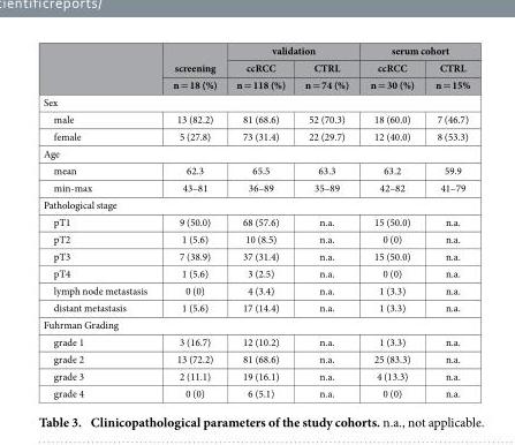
<table><thead><tr><td rowspan="3"></td><td rowspan="3">screening n = 18 (%)</td><td colspan="2">validation</td><td colspan="2">serum cohort</td></tr><tr><td rowspan="2">ccRCC n = 118 (%)</td><td rowspan="2">CTRL n = 74 (%)</td><td rowspan="2">ccRCC n = 30 (%)</td><td rowspan="2">CTRL n = 15%</td></tr><tr></tr></thead><tbody><tr><td colspan="6">Sex</td></tr><tr><td>male</td><td>13 (82.2)</td><td>81 (68.6)</td><td>52 (70.3)</td><td>18 (60.0)</td><td>7 (46.7)</td></tr><tr><td>female</td><td>5 (27.8)</td><td>73 (31.4)</td><td>22 (29.7)</td><td>12 (40.0)</td><td>8 (53.3)</td></tr><tr><td colspan="6">Age</td></tr><tr><td>mean</td><td>62.3</td><td>65.5</td><td>63.3</td><td>63.2</td><td>59.9</td></tr><tr><td>min-max</td><td>43–81</td><td>36–89</td><td>35–89</td><td>42–82</td><td>41–79</td></tr><tr><td colspan="6">Pathological stage</td></tr><tr><td>pT1</td><td>9 (50.0)</td><td>68 (57.6)</td><td>n.a.</td><td>15 (50.0)</td><td>n.a.</td></tr><tr><td>pT2</td><td>1 (5.6)</td><td>10 (8.5)</td><td>n.a.</td><td>0 (0)</td><td>n.a.</td></tr><tr><td>pT3</td><td>7 (38.9)</td><td>37 (31.4)</td><td>n.a.</td><td>15 (50.0)</td><td>n.a.</td></tr><tr><td>pT4</td><td>1 (5.6)</td><td>3 (2.5)</td><td>n.a.</td><td>0 (0)</td><td>n.a.</td></tr><tr><td>lymph node metastasis</td><td>0 (0)</td><td>4 (3.4)</td><td>n.a.</td><td>1 (3.3)</td><td>n.a.</td></tr><tr><td>distant metastasis</td><td>1 (5.6)</td><td>17 (14.4)</td><td>n.a.</td><td>1 (3.3)</td><td>n.a.</td></tr><tr><td colspan="6">Fuhrman Grading</td></tr><tr><td>grade 1</td><td>3 (16.7)</td><td>12 (10.2)</td><td>n.a.</td><td>1 (3.3)</td><td>n.a.</td></tr><tr><td>grade 2</td><td>13 (72.2)</td><td>81 (68.6)</td><td>n.a.</td><td>25 (83.3)</td><td>n.a.</td></tr><tr><td>grade 3</td><td>2 (11.1)</td><td>19 (16.1)</td><td>n.a.</td><td>4 (13.3)</td><td>n.a.</td></tr><tr><td>grade 4</td><td>0 (0)</td><td>6 (5.1)</td><td>n.a.</td><td>0 (0)</td><td>n.a.</td></tr></tbody></table>